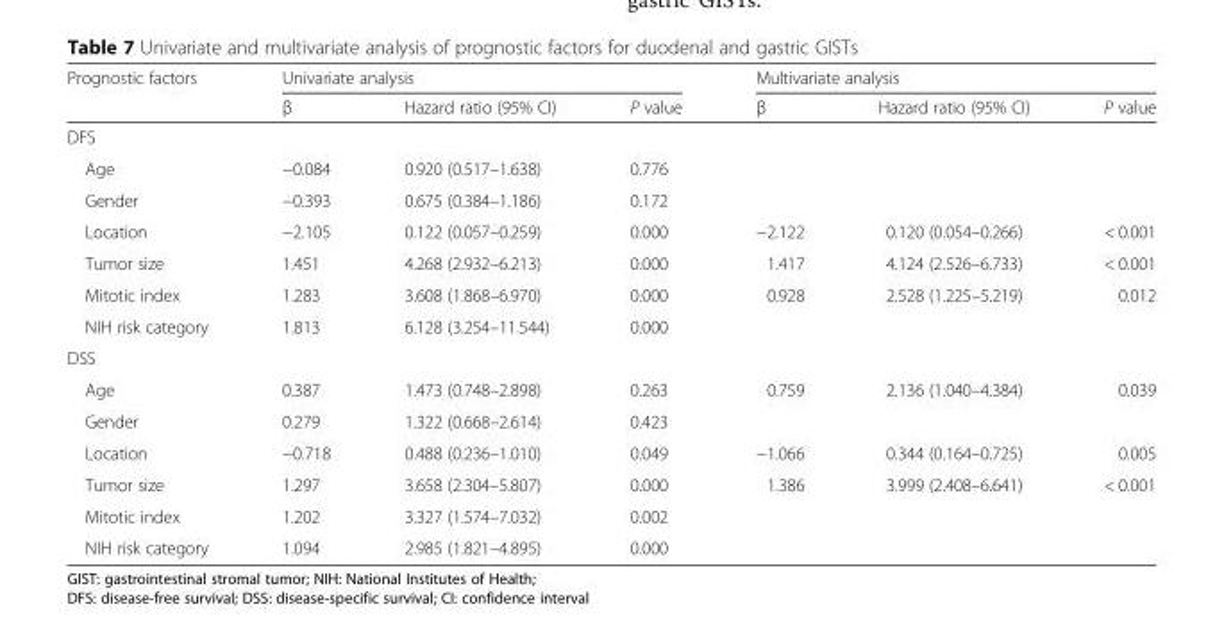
<table><thead><tr><td rowspan="2">Prognostic factors</td><td colspan="3">Univariate analysis</td><td colspan="3">Multivariate analysis</td></tr><tr><td>β</td><td>Hazard ratio (95% CI)</td><td>P value</td><td>β</td><td>Hazard ratio (95% CI)</td><td>P value</td></tr></thead><tbody><tr><td colspan="7">DFS</td></tr><tr><td>Age</td><td>−0.084</td><td>0.920 (0.517–1.638)</td><td>0.776</td><td></td><td></td><td></td></tr><tr><td>Gender</td><td>−0.393</td><td>0.675 (0.384–1.186)</td><td>0.172</td><td></td><td></td><td></td></tr><tr><td>Location</td><td>−2.105</td><td>0.122 (0.057–0.259)</td><td>0.000</td><td>−2.122</td><td>0.120 (0.054–0.266)</td><td>&lt; 0.001</td></tr><tr><td>Tumor size</td><td>1.451</td><td>4.268 (2.932–6.213)</td><td>0.000</td><td>1.417</td><td>4.124 (2.526–6.733)</td><td>&lt; 0.001</td></tr><tr><td>Mitotic index</td><td>1.283</td><td>3.608 (1.868–6.970)</td><td>0.000</td><td>0.928</td><td>2.528 (1.225–5.219)</td><td>0.012</td></tr><tr><td>NIH risk category</td><td>1.813</td><td>6.128 (3.254–11.544)</td><td>0.000</td><td></td><td></td><td></td></tr><tr><td colspan="7">DSS</td></tr><tr><td>Age</td><td>0.387</td><td>1.473 (0.748–2.898)</td><td>0.263</td><td>0.759</td><td>2.136 (1.040–4.384)</td><td>0.039</td></tr><tr><td>Gender</td><td>0.279</td><td>1.322 (0.668–2.614)</td><td>0.423</td><td></td><td></td><td></td></tr><tr><td>Location</td><td>−0.718</td><td>0.488 (0.236–1.010)</td><td>0.049</td><td>−1.066</td><td>0.344 (0.164–0.725)</td><td>0.005</td></tr><tr><td>Tumor size</td><td>1.297</td><td>3.658 (2.304–5.807)</td><td>0.000</td><td>1.386</td><td>3.999 (2.408–6.641)</td><td>&lt; 0.001</td></tr><tr><td>Mitotic index</td><td>1.202</td><td>3.327 (1.574–7.032)</td><td>0.002</td><td></td><td></td><td></td></tr><tr><td>NIH risk category</td><td>1.094</td><td>2.985 (1.821–4.895)</td><td>0.000</td><td></td><td></td><td></td></tr></tbody></table>